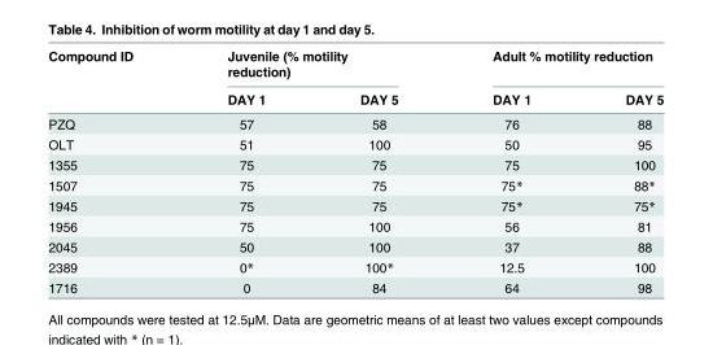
<table><thead><tr><td rowspan="2">Compound ID</td><td colspan="2">Juvenile (% motility reduction)</td><td colspan="2">Adult % motility reduction</td></tr><tr><td>DAY 1</td><td>DAY 5</td><td>DAY 1</td><td>DAY 5</td></tr></thead><tbody><tr><td>PZQ</td><td>57</td><td>58</td><td>76</td><td>88</td></tr><tr><td>OLT</td><td>51</td><td>100</td><td>50</td><td>95</td></tr><tr><td>1355</td><td>75</td><td>75</td><td>75</td><td>100</td></tr><tr><td>1507</td><td>75</td><td>75</td><td>75*</td><td>88*</td></tr><tr><td>1945</td><td>75</td><td>75</td><td>75*</td><td>75*</td></tr><tr><td>1956</td><td>75</td><td>100</td><td>56</td><td>81</td></tr><tr><td>2045</td><td>50</td><td>100</td><td>37</td><td>88</td></tr><tr><td>2389</td><td>0*</td><td>100*</td><td>12.5</td><td>100</td></tr><tr><td>1716</td><td>0</td><td>84</td><td>64</td><td>98</td></tr></tbody></table>